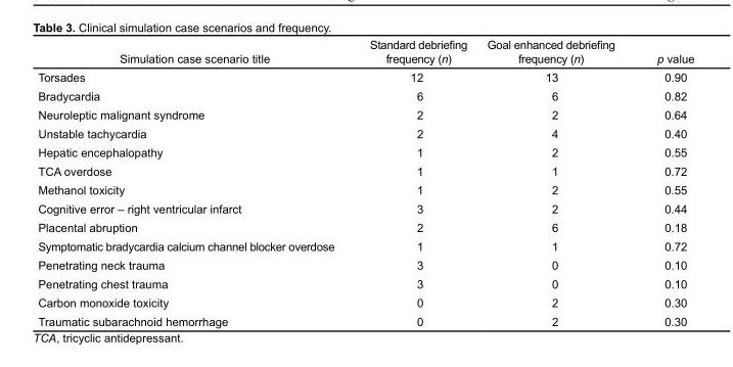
<table><thead><tr><td>Simulation case scenario title</td><td>Standard debriefing frequency (n)</td><td>Goal enhanced debriefing frequency (n)</td><td>p value</td></tr></thead><tbody><tr><td>Torsades</td><td>12</td><td>13</td><td>0.90</td></tr><tr><td>Bradycardia</td><td>6</td><td>6</td><td>0.82</td></tr><tr><td>Neuroleptic malignant syndrome</td><td>2</td><td>2</td><td>0.64</td></tr><tr><td>Unstable tachycardia</td><td>2</td><td>4</td><td>0.40</td></tr><tr><td>Hepatic encephalopathy</td><td>1</td><td>2</td><td>0.55</td></tr><tr><td>TCA overdose</td><td>1</td><td>1</td><td>0.72</td></tr><tr><td>Methanol toxicity</td><td>1</td><td>2</td><td>0.55</td></tr><tr><td>Cognitive error – right ventricular infarct</td><td>3</td><td>2</td><td>0.44</td></tr><tr><td>Placental abruption</td><td>2</td><td>6</td><td>0.18</td></tr><tr><td>Symptomatic bradycardia calcium channel blocker overdose</td><td>1</td><td>1</td><td>0.72</td></tr><tr><td>Penetrating neck trauma</td><td>3</td><td>0</td><td>0.10</td></tr><tr><td>Penetrating chest trauma</td><td>3</td><td>0</td><td>0.10</td></tr><tr><td>Carbon monoxide toxicity</td><td>0</td><td>2</td><td>0.30</td></tr><tr><td>Traumatic subarachnoid hemorrhage</td><td>0</td><td>2</td><td>0.30</td></tr></tbody></table>